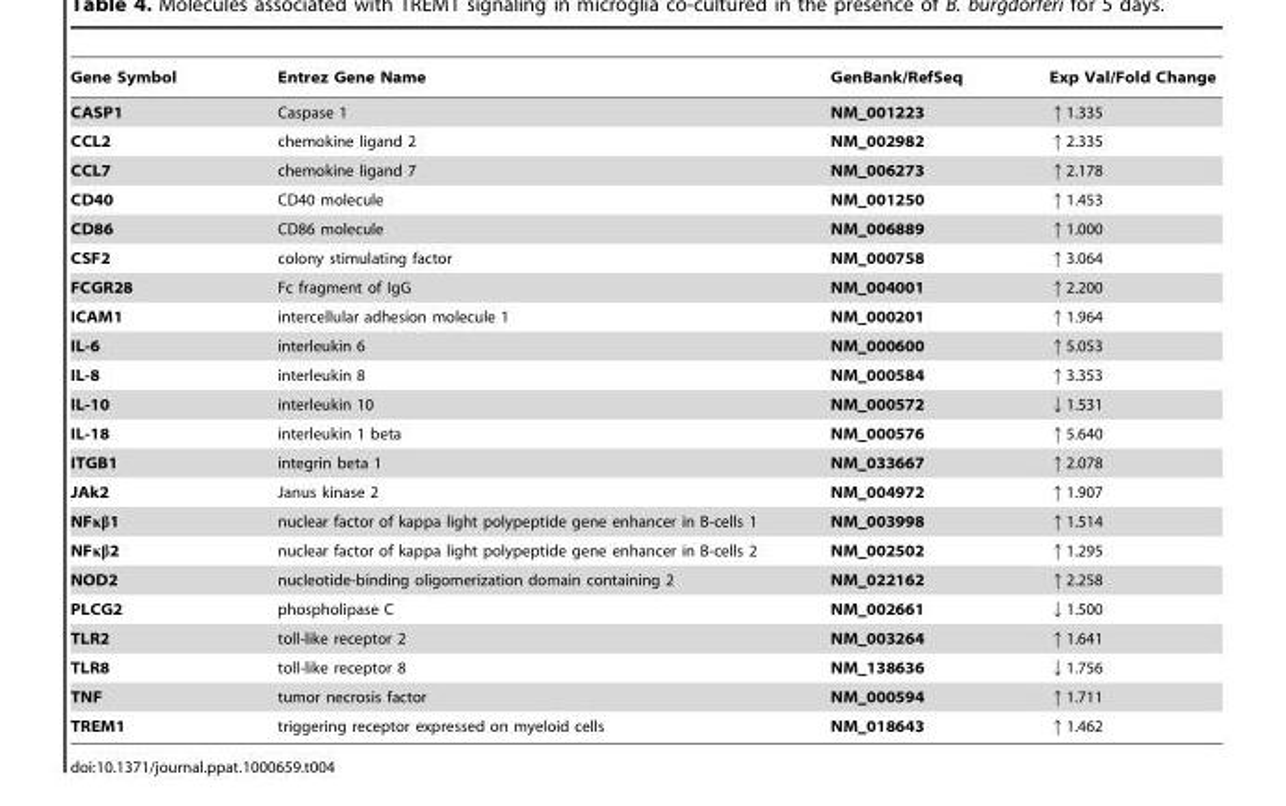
<table><thead><tr><td>Gene Symbol</td><td>Entrez Gene Name</td><td>GenBank/RefSeq</td><td>Exp Val/Fold Change</td></tr></thead><tbody><tr><td>CASP1</td><td>Caspase 1</td><td>NM__001223</td><td>↑1.335</td></tr><tr><td>CCL2</td><td>chemokine ligand 2</td><td>NM__002982</td><td>↑2.335</td></tr><tr><td>CCL7</td><td>chemokine ligand 7</td><td>NM__006273</td><td>↑2.178</td></tr><tr><td>CD40</td><td>CD40 molecule</td><td>NM__001250</td><td>↑1.453</td></tr><tr><td>CD86</td><td>CD86 molecule</td><td>NM__006889</td><td>↑1.000</td></tr><tr><td>CSF2</td><td>colony stimulating factor</td><td>NM__000758</td><td>↑3.064</td></tr><tr><td>FCGR28</td><td>Fc fragment of IgG</td><td>NM__004001</td><td>↑2.200</td></tr><tr><td>ICAM1</td><td>intercellular adhesion molecule 1</td><td>NM__000201</td><td>↑1.964</td></tr><tr><td>IL-6</td><td>interleukin 6</td><td>NM__000600</td><td>↑5.053</td></tr><tr><td>IL-8</td><td>interleukin 8</td><td>NM__000584</td><td>↑3.353</td></tr><tr><td>IL-10</td><td>interleukin 10</td><td>NM__000572</td><td>↓1.531</td></tr><tr><td>IL-18</td><td>interleukin 1 beta</td><td>NM__000576</td><td>↑5.640</td></tr><tr><td>ITGB1</td><td>integrin beta 1</td><td>NM__033667</td><td>↑2.078</td></tr><tr><td>JAk2</td><td>Janus kinase 2</td><td>NM__004972</td><td>↑1.907</td></tr><tr><td>NFκβ1</td><td>nuclear factor of kappa light polypeptide gene enhancer in B-cells 1</td><td>NM__003998</td><td>↑1.514</td></tr><tr><td>NFκβ2</td><td>nuclear factor of kappa light polypeptide gene enhancer in B-cells 2</td><td>NM__002502</td><td>↑1.295</td></tr><tr><td>NOD2</td><td>nucleotide-binding oligomerization domain containing 2</td><td>NM__022162</td><td>↑2.258</td></tr><tr><td>PLCG2</td><td>phospholipase C</td><td>NM__002661</td><td>↓1.500</td></tr><tr><td>TLR2</td><td>toll-like receptor 2</td><td>NM__003264</td><td>↑1.641</td></tr><tr><td>TLR8</td><td>toll-like receptor 8</td><td>NM__138636</td><td>↓1.756</td></tr><tr><td>TNF</td><td>tumor necrosis factor</td><td>NM__000594</td><td>↑1.711</td></tr><tr><td>TREM1</td><td>triggering receptor expressed on myeloid cells</td><td>NM__018643</td><td>↑1.462</td></tr></tbody></table>